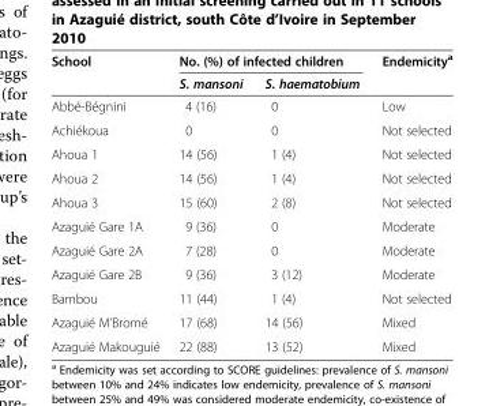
<table><thead><tr><td rowspan="2">School</td><td colspan="2">No. (%) of infected children</td><td rowspan="2">Endemicity<sup>a</sup></td></tr><tr><td>S. mansoni</td><td>S. haematobium</td></tr></thead><tbody><tr><td>Abbé-Bégnini</td><td>4 (16)</td><td>0</td><td>Low</td></tr><tr><td>Achiékoua</td><td>0</td><td>0</td><td>Not selected</td></tr><tr><td>Ahoua 1</td><td>14 (56)</td><td>1 (4)</td><td>Not selected</td></tr><tr><td>Ahoua 2</td><td>14 (56)</td><td>1 (4)</td><td>Not selected</td></tr><tr><td>Ahoua 3</td><td>15 (60)</td><td>2 (8)</td><td>Not selected</td></tr><tr><td>Azaguié Gare 1A</td><td>9 (36)</td><td>0</td><td>Moderate</td></tr><tr><td>Azaguié Gare 2A</td><td>7 (28)</td><td>0</td><td>Moderate</td></tr><tr><td>Azaguié Gare 2B</td><td>9 (36)</td><td>3 (12)</td><td>Moderate</td></tr><tr><td>Bambou</td><td>11 (44)</td><td>1 (4)</td><td>Not selected</td></tr><tr><td>Azaguié M’Bromé</td><td>17 (68)</td><td>14 (56)</td><td>Mixed</td></tr><tr><td>Azaguié Makouguié</td><td>22 (88)</td><td>13 (52)</td><td>Mixed</td></tr></tbody></table>